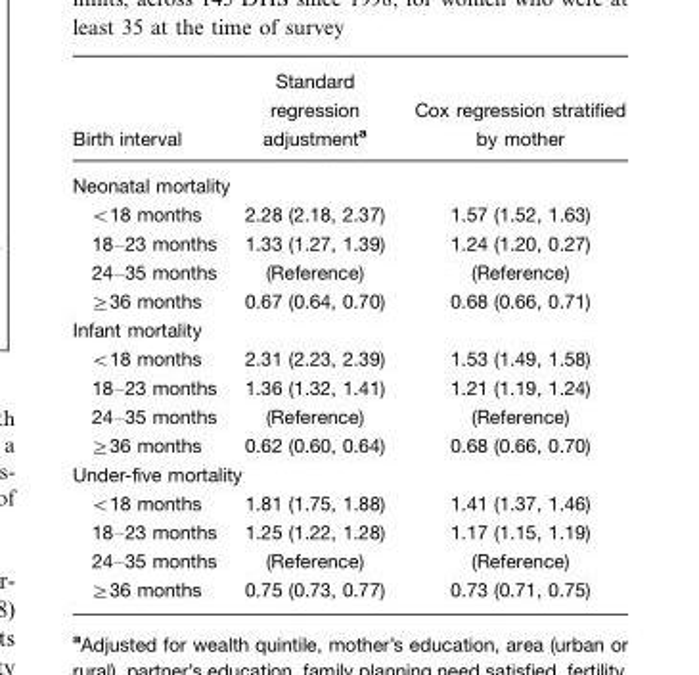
<table><thead><tr><td>Birth interval</td><td>Standard regression adjustment<sup>a</sup></td><td>Cox regression stratified by mother</td></tr></thead><tbody><tr><td colspan="3">Neonatal mortality</td></tr><tr><td>&lt;18 months</td><td>2.28 (2.18, 2.37)</td><td>1.57 (1.52, 1.63)</td></tr><tr><td>18–23 months</td><td>1.33 (1.27, 1.39)</td><td>1.24 (1.20, 0.27)</td></tr><tr><td>24–35 months</td><td>(Reference)</td><td>(Reference)</td></tr><tr><td>≥36 months</td><td>0.67 (0.64, 0.70)</td><td>0.68 (0.66, 0.71)</td></tr><tr><td colspan="3">Infant mortality</td></tr><tr><td>&lt;18 months</td><td>2.31 (2.23, 2.39)</td><td>1.53 (1.49, 1.58)</td></tr><tr><td>18–23 months</td><td>1.36 (1.32, 1.41)</td><td>1.21 (1.19, 1.24)</td></tr><tr><td>24–35 months</td><td>(Reference)</td><td>(Reference)</td></tr><tr><td>≥36 months</td><td>0.62 (0.60, 0.64)</td><td>0.68 (0.66, 0.70)</td></tr><tr><td colspan="3">Under-five mortality</td></tr><tr><td>&lt;18 months</td><td>1.81 (1.75, 1.88)</td><td>1.41 (1.37, 1.46)</td></tr><tr><td>18–23 months</td><td>1.25 (1.22, 1.28)</td><td>1.17 (1.15, 1.19)</td></tr><tr><td>24–35 months</td><td>(Reference)</td><td>(Reference)</td></tr><tr><td>≥36 months</td><td>0.75 (0.73, 0.77)</td><td>0.73 (0.71, 0.75)</td></tr></tbody></table>